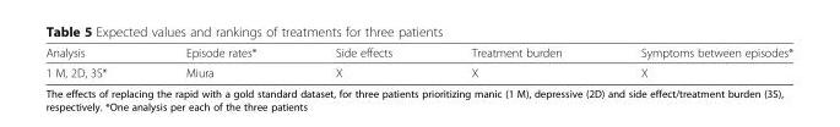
<table><thead><tr><td>Analysis</td><td>Episode rates*</td><td>Side effects</td><td>Treatment burden</td><td>Symptoms between episodes*</td></tr></thead><tbody><tr><td>1 M, 2D, 3S*</td><td>Miura</td><td>X</td><td>X</td><td>X</td></tr></tbody></table>